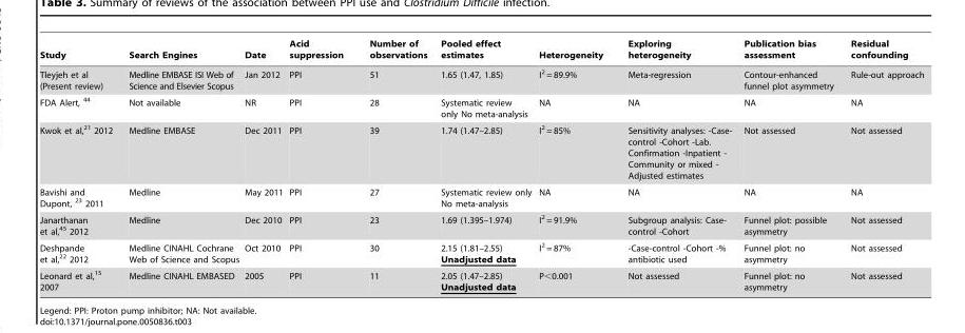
<table><thead><tr><td>Study</td><td>Search Engines</td><td>Date</td><td>Acid suppression</td><td>Number of observations</td><td>Pooled effect estimates</td><td>Heterogeneity</td><td>Exploring heterogeneity</td><td>Publication bias assessment</td><td>Residual confounding</td></tr></thead><tbody><tr><td>Tleyjeh et al (Present review)</td><td>Medline EMBASE ISI Web of Science and Elsevier Scopus</td><td>Jan 2012</td><td>PPI</td><td>51</td><td>1.65 (1.47, 1.85)</td><td>I<sup>2</sup> = 89.9%</td><td>Meta-regression</td><td>Contour-enhanced funnel plot asymmetry</td><td>Rule-out approach</td></tr><tr><td>FDA Alert, <sup>44</sup></td><td>Not available</td><td>NR</td><td>PPI</td><td>28</td><td>Systematic review only No meta-analysis</td><td>NA</td><td>NA</td><td>NA</td><td>NA</td></tr><tr><td>Kwok et al,<sup>21</sup> 2012</td><td>Medline EMBASE</td><td>Dec 2011</td><td>PPI</td><td>39</td><td>1.74 (1.47–2.85)</td><td>I<sup>2</sup> = 85%</td><td>Sensitivity analyses: -Case- control -Cohort -Lab. Confirmation -Inpatient - Community or mixed - Adjusted estimates</td><td>Not assessed</td><td>Not assessed</td></tr><tr><td>Bavishi and Dupont, <sup>23</sup> 2011</td><td>Medline</td><td>May 2011</td><td>PPI</td><td>27</td><td>Systematic review only No meta-analysis</td><td>NA</td><td>NA</td><td>NA</td><td>NA</td></tr><tr><td>Janarthanan et al,<sup>45</sup> 2012</td><td>Medline</td><td>Dec 2010</td><td>PPI</td><td>23</td><td>1.69 (1.395–1.974)</td><td>I<sup>2</sup> = 91.9%</td><td>Subgroup analysis: Case- control -Cohort</td><td>Funnel plot: possible asymmetry</td><td>Not assessed</td></tr><tr><td>Deshpande et al,<sup>22</sup> 2012</td><td>Medline CINAHL Cochrane Web of Science and Scopus</td><td>Oct 2010</td><td>PPI</td><td>30</td><td>2.15 (1.81–2.55) Unadjusted data</td><td>I<sup>2</sup> = 87%</td><td>-Case-control -Cohort -% antibiotic used</td><td>Funnel plot: no asymmetry</td><td>Not assessed</td></tr><tr><td>Leonard et al,<sup>15</sup> 2007</td><td>Medline CINAHL EMBASED</td><td>2005</td><td>PPI</td><td>11</td><td>2.05 (1.47–2.85) Unadjusted data</td><td>P&lt;0.001</td><td>Not assessed</td><td>Funnel plot: no asymmetry</td><td>Not assessed</td></tr></tbody></table>